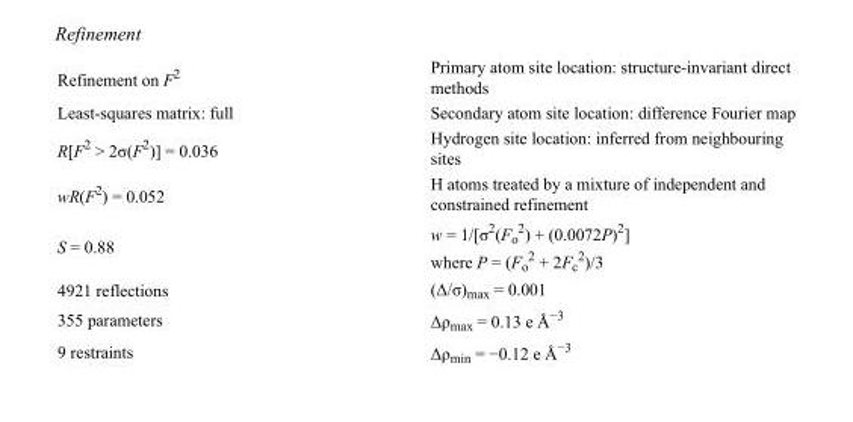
<table><tbody><tr><td>Refinement on F<sup>2</sup></td><td>Primary atom site location: structure-invariant direct methods</td></tr><tr><td>Least-squares matrix: full</td><td>Secondary atom site location: difference Fourier map</td></tr><tr><td>R[F<sup>2</sup> &gt; 2σ(F<sup>2</sup>)] = 0.036</td><td>Hydrogen site location: inferred from neighbouring sites</td></tr><tr><td>wR(F<sup>2</sup>) = 0.052</td><td>H atoms treated by a mixture of independent and constrained refinement</td></tr><tr><td>S = 0.88</td><td>w = 1/[σ<sup>2</sup>(F<sub>o</sub> <sup>2</sup>) + (0.0072P)<sup>2</sup>] where P = (F<sub>o</sub> <sup>2</sup> + 2F<sub>c</sub> <sup>2</sup>)/3</td></tr><tr><td>4921 reflections</td><td>(Δ/σ)<sub>max</sub> = 0.001</td></tr><tr><td>355 parameters</td><td>Δρ<sub>max</sub> = 0.13 e Å<sup>−3</sup></td></tr><tr><td>9 restraints</td><td>Δρ<sub>min</sub> = −0.12 e Å<sup>−3</sup></td></tr></tbody></table>